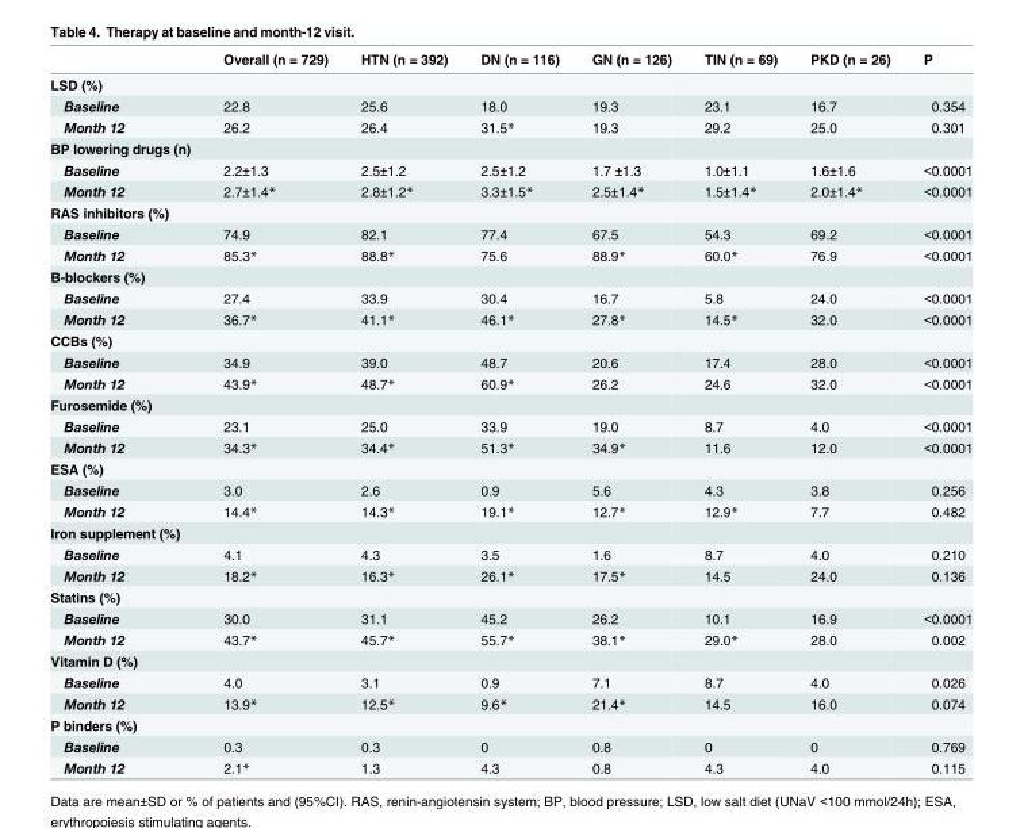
<table><thead><tr><td></td><td>Overall (n = 729)</td><td>HTN (n = 392)</td><td>DN (n = 116)</td><td>GN (n = 126)</td><td>TIN (n = 69)</td><td>PKD (n = 26)</td><td>P</td></tr></thead><tbody><tr><td colspan="8">LSD (%)</td></tr><tr><td>Baseline</td><td>22.8</td><td>25.6</td><td>18.0</td><td>19.3</td><td>23.1</td><td>16.7</td><td>0.354</td></tr><tr><td>Month 12</td><td>26.2</td><td>26.4</td><td>31.5*</td><td>19.3</td><td>29.2</td><td>25.0</td><td>0.301</td></tr><tr><td colspan="8">BP lowering drugs (n)</td></tr><tr><td>Baseline</td><td>2.2±1.3</td><td>2.5±1.2</td><td>2.5±1.2</td><td>1.7 ±1.3</td><td>1.0±1.1</td><td>1.6±1.6</td><td>&lt;0.0001</td></tr><tr><td>Month 12</td><td>2.7±1.4*</td><td>2.8±1.2*</td><td>3.3±1.5*</td><td>2.5±1.4*</td><td>1.5±1.4*</td><td>2.0±1.4*</td><td>&lt;0.0001</td></tr><tr><td colspan="8">RAS inhibitors (%)</td></tr><tr><td>Baseline</td><td>74.9</td><td>82.1</td><td>77.4</td><td>67.5</td><td>54.3</td><td>69.2</td><td>&lt;0.0001</td></tr><tr><td>Month 12</td><td>85.3*</td><td>88.8*</td><td>75.6</td><td>88.9*</td><td>60.0*</td><td>76.9</td><td>&lt;0.0001</td></tr><tr><td colspan="8">B-blockers (%)</td></tr><tr><td>Baseline</td><td>27.4</td><td>33.9</td><td>30.4</td><td>16.7</td><td>5.8</td><td>24.0</td><td>&lt;0.0001</td></tr><tr><td>Month 12</td><td>36.7*</td><td>41.1*</td><td>46.1*</td><td>27.8*</td><td>14.5*</td><td>32.0</td><td>&lt;0.0001</td></tr><tr><td colspan="8">CCBs (%)</td></tr><tr><td>Baseline</td><td>34.9</td><td>39.0</td><td>48.7</td><td>20.6</td><td>17.4</td><td>28.0</td><td>&lt;0.0001</td></tr><tr><td>Month 12</td><td>43.9*</td><td>48.7*</td><td>60.9*</td><td>26.2</td><td>24.6</td><td>32.0</td><td>&lt;0.0001</td></tr><tr><td colspan="8">Furosemide (%)</td></tr><tr><td>Baseline</td><td>23.1</td><td>25.0</td><td>33.9</td><td>19.0</td><td>8.7</td><td>4.0</td><td>&lt;0.0001</td></tr><tr><td>Month 12</td><td>34.3*</td><td>34.4*</td><td>51.3*</td><td>34.9*</td><td>11.6</td><td>12.0</td><td>&lt;0.0001</td></tr><tr><td colspan="8">ESA (%)</td></tr><tr><td>Baseline</td><td>3.0</td><td>2.6</td><td>0.9</td><td>5.6</td><td>4.3</td><td>3.8</td><td>0.256</td></tr><tr><td>Month 12</td><td>14.4*</td><td>14.3*</td><td>19.1*</td><td>12.7*</td><td>12.9*</td><td>7.7</td><td>0.482</td></tr><tr><td colspan="8">Iron supplement (%)</td></tr><tr><td>Baseline</td><td>4.1</td><td>4.3</td><td>3.5</td><td>1.6</td><td>8.7</td><td>4.0</td><td>0.210</td></tr><tr><td>Month 12</td><td>18.2*</td><td>16.3*</td><td>26.1*</td><td>17.5*</td><td>14.5</td><td>24.0</td><td>0.136</td></tr><tr><td colspan="8">Statins (%)</td></tr><tr><td>Baseline</td><td>30.0</td><td>31.1</td><td>45.2</td><td>26.2</td><td>10.1</td><td>16.9</td><td>&lt;0.0001</td></tr><tr><td>Month 12</td><td>43.7*</td><td>45.7*</td><td>55.7*</td><td>38.1*</td><td>29.0*</td><td>28.0</td><td>0.002</td></tr><tr><td colspan="8">Vitamin D (%)</td></tr><tr><td>Baseline</td><td>4.0</td><td>3.1</td><td>0.9</td><td>7.1</td><td>8.7</td><td>4.0</td><td>0.026</td></tr><tr><td>Month 12</td><td>13.9*</td><td>12.5*</td><td>9.6*</td><td>21.4*</td><td>14.5</td><td>16.0</td><td>0.074</td></tr><tr><td colspan="8">P binders (%)</td></tr><tr><td>Baseline</td><td>0.3</td><td>0.3</td><td>0</td><td>0.8</td><td>0</td><td>0</td><td>0.769</td></tr><tr><td>Month 12</td><td>2.1*</td><td>1.3</td><td>4.3</td><td>0.8</td><td>4.3</td><td>4.0</td><td>0.115</td></tr></tbody></table>